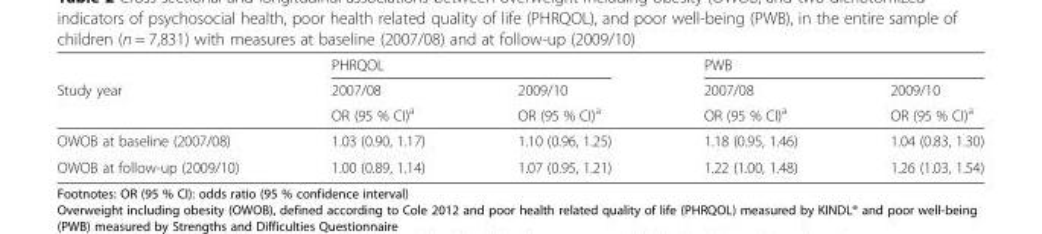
<table><thead><tr><td rowspan="3">Study year</td><td colspan="2">PHRQOL</td><td colspan="2">PWB</td></tr><tr><td rowspan="2">2007/08 OR (95 % CI)<sup>a</sup></td><td rowspan="2">2009/10 OR (95 % CI)<sup>a</sup></td><td rowspan="2">2007/08 OR (95 % CI)<sup>a</sup></td><td rowspan="2">2009/10 OR (95 % CI)<sup>a</sup></td></tr><tr></tr></thead><tbody><tr><td>OWOB at baseline (2007/08)</td><td>1.03 (0.90, 1.17)</td><td>1.10 (0.96, 1.25)</td><td>1.18 (0.95, 1.46)</td><td>1.04 (0.83, 1.30)</td></tr><tr><td>OWOB at follow-up (2009/10)</td><td>1.00 (0.89, 1.14)</td><td>1.07 (0.95, 1.21)</td><td>1.22 (1.00, 1.48)</td><td>1.26 (1.03, 1.54)</td></tr></tbody></table>